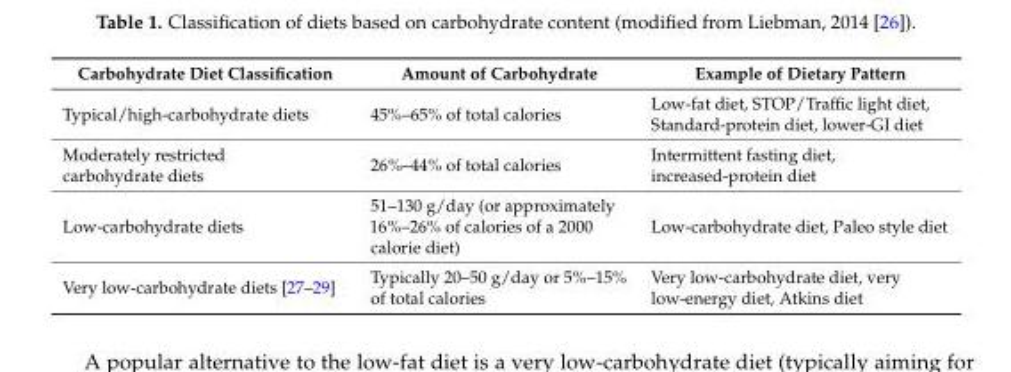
<table><thead><tr><td>Carbohydrate Diet Classification</td><td>Amount of Carbohydrate</td><td>Example of Dietary Pattern</td></tr></thead><tbody><tr><td>Typical/high-carbohydrate diets</td><td>45%–65% of total calories</td><td>Low-fat diet, STOP/Traffic light diet, Standard-protein diet, lower-GI diet</td></tr><tr><td>Moderately restricted carbohydrate diets</td><td>26%–44% of total calories</td><td>Intermittent fasting diet, increased-protein diet</td></tr><tr><td>Low-carbohydrate diets</td><td>51–130 g/day (or approximately 16%–26% of calories of a 2000 calorie diet)</td><td>Low-carbohydrate diet, Paleo style diet</td></tr><tr><td>Very low-carbohydrate diets [27–29]</td><td>Typically 20–50 g/day or 5%–15% of total calories</td><td>Very low-carbohydrate diet, very low-energy diet, Atkins diet</td></tr></tbody></table>